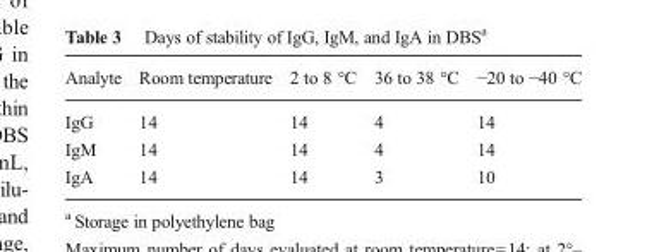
<table><thead><tr><td>Analyte</td><td>Room temperature</td><td>2 to 8 °C</td><td>36 to 38 °C</td><td>−20 to −40 °C</td></tr></thead><tbody><tr><td>IgG</td><td>14</td><td>14</td><td>4</td><td>14</td></tr><tr><td>IgM</td><td>14</td><td>14</td><td>4</td><td>14</td></tr><tr><td>IgA</td><td>14</td><td>14</td><td>3</td><td>10</td></tr></tbody></table>